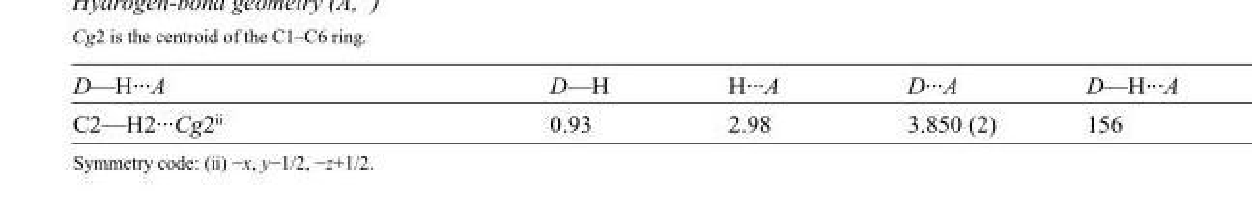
<table><tbody><tr><td>D—H···A</td><td>D—H</td><td>H···A</td><td>D···A</td><td>D—H···A</td></tr><tr><td>C2—H2···Cg2<sup>ii</sup></td><td>0.93</td><td>2.98</td><td>3.850 (2)</td><td>156</td></tr></tbody></table>